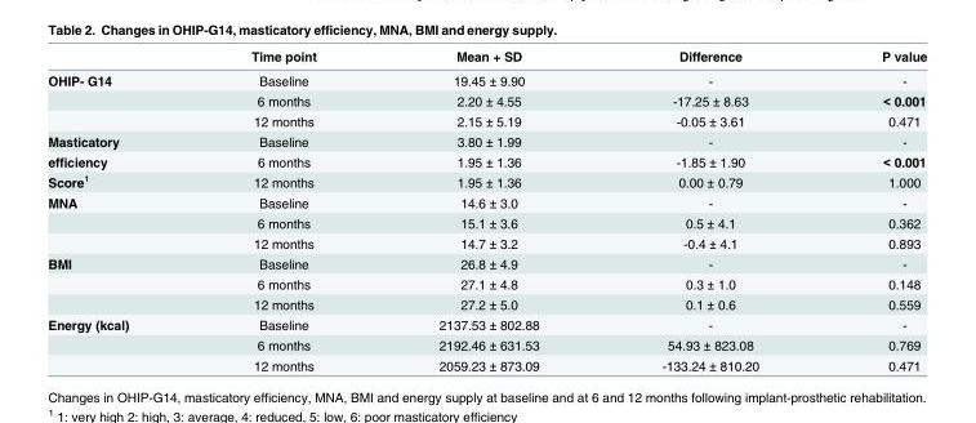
<table><thead><tr><td></td><td>Time point</td><td>Mean + SD</td><td>Difference</td><td>P value</td></tr></thead><tbody><tr><td rowspan="3">OHIP- G14</td><td>Baseline</td><td>19.45 ± 9.90</td><td>-</td><td>-</td></tr><tr><td>6 months</td><td>2.20 ± 4.55</td><td>-17.25 ± 8.63</td><td>&lt; 0.001</td></tr><tr><td>12 months</td><td>2.15 ± 5.19</td><td>-0.05 ± 3.61</td><td>0.471</td></tr><tr><td>Masticatory</td><td>Baseline</td><td>3.80 ± 1.99</td><td>-</td><td>-</td></tr><tr><td>efficiency</td><td>6 months</td><td>1.95 ± 1.36</td><td>-1.85 ± 1.90</td><td>&lt; 0.001</td></tr><tr><td>Score<sup>1</sup></td><td>12 months</td><td>1.95 ± 1.36</td><td>0.00 ± 0.79</td><td>1.000</td></tr><tr><td rowspan="3">MNA</td><td>Baseline</td><td>14.6 ± 3.0</td><td>-</td><td>-</td></tr><tr><td>6 months</td><td>15.1 ± 3.6</td><td>0.5 ± 4.1</td><td>0.362</td></tr><tr><td>12 months</td><td>14.7 ± 3.2</td><td>-0.4 ± 4.1</td><td>0.893</td></tr><tr><td rowspan="3">BMI</td><td>Baseline</td><td>26.8 ± 4.9</td><td>-</td><td>-</td></tr><tr><td>6 months</td><td>27.1 ± 4.8</td><td>0.3 ± 1.0</td><td>0.148</td></tr><tr><td>12 months</td><td>27.2 ± 5.0</td><td>0.1 ± 0.6</td><td>0.559</td></tr><tr><td rowspan="3">Energy (kcal)</td><td>Baseline</td><td>2137.53 ± 802.88</td><td>-</td><td>-</td></tr><tr><td>6 months</td><td>2192.46 ± 631.53</td><td>54.93 ± 823.08</td><td>0.769</td></tr><tr><td>12 months</td><td>2059.23 ± 873.09</td><td>-133.24 ± 810.20</td><td>0.471</td></tr></tbody></table>